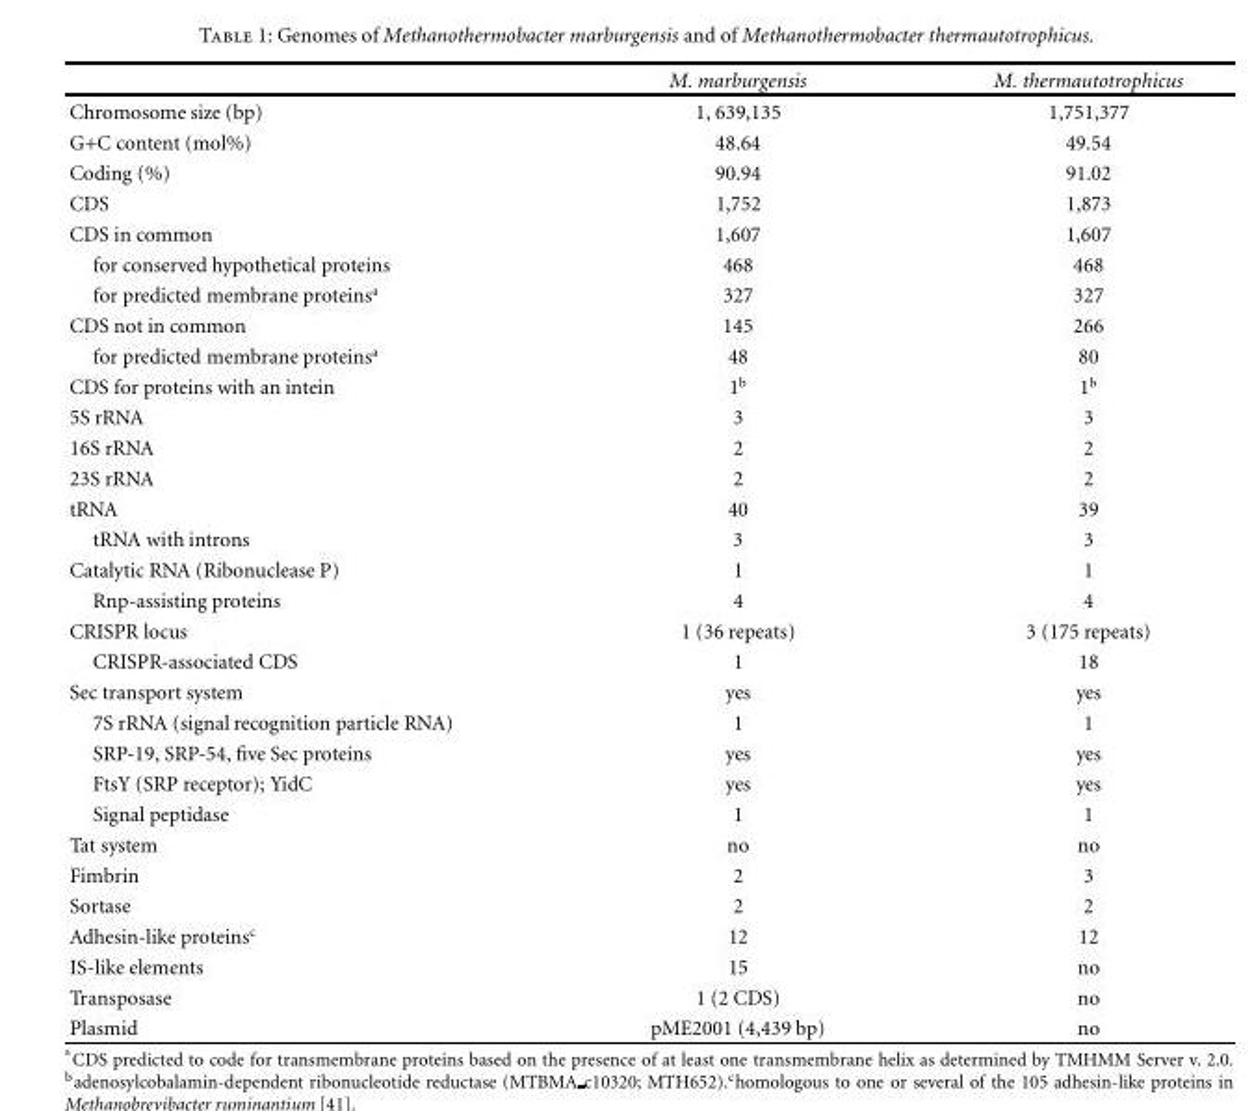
<table><thead><tr><td></td><td>M. marburgensis</td><td>M. thermautotrophicus</td></tr></thead><tbody><tr><td>Chromosome size (bp)</td><td>1, 639,135</td><td>1,751,377</td></tr><tr><td>G+C content (mol%)</td><td>48.64</td><td>49.54</td></tr><tr><td>Coding (%)</td><td>90.94</td><td>91.02</td></tr><tr><td>CDS</td><td>1,752</td><td>1,873</td></tr><tr><td>CDS in common</td><td>1,607</td><td>1,607</td></tr><tr><td>for conserved hypothetical proteins</td><td>468</td><td>468</td></tr><tr><td>for predicted membrane proteins<sup>a</sup></td><td>327</td><td>327</td></tr><tr><td>CDS not in common</td><td>145</td><td>266</td></tr><tr><td>for predicted membrane proteins<sup>a</sup></td><td>48</td><td>80</td></tr><tr><td>CDS for proteins with an intein</td><td>1<sup>b</sup></td><td>1<sup>b</sup></td></tr><tr><td>5S rRNA</td><td>3</td><td>3</td></tr><tr><td>16S rRNA</td><td>2</td><td>2</td></tr><tr><td>23S rRNA</td><td>2</td><td>2</td></tr><tr><td>tRNA</td><td>40</td><td>39</td></tr><tr><td>tRNA with introns</td><td>3</td><td>3</td></tr><tr><td>Catalytic RNA (Ribonuclease P)</td><td>1</td><td>1</td></tr><tr><td>Rnp-assisting proteins</td><td>4</td><td>4</td></tr><tr><td>CRISPR locus</td><td>1 (36 repeats)</td><td>3 (175 repeats)</td></tr><tr><td>CRISPR-associated CDS</td><td>1</td><td>18</td></tr><tr><td>Sec transport system</td><td>yes</td><td>yes</td></tr><tr><td>7S rRNA (signal recognition particle RNA)</td><td>1</td><td>1</td></tr><tr><td>SRP-19, SRP-54, five Sec proteins</td><td>yes</td><td>yes</td></tr><tr><td>FtsY (SRP receptor); YidC</td><td>yes</td><td>yes</td></tr><tr><td>Signal peptidase</td><td>1</td><td>1</td></tr><tr><td>Tat system</td><td>no</td><td>no</td></tr><tr><td>Fimbrin</td><td>2</td><td>3</td></tr><tr><td>Sortase</td><td>2</td><td>2</td></tr><tr><td>Adhesin-like proteins<sup>c</sup></td><td>12</td><td>12</td></tr><tr><td>IS-like elements</td><td>15</td><td>no</td></tr><tr><td>Transposase</td><td>1 (2 CDS)</td><td>no</td></tr><tr><td>Plasmid</td><td>pME2001 (4,439 bp)</td><td>no</td></tr></tbody></table>